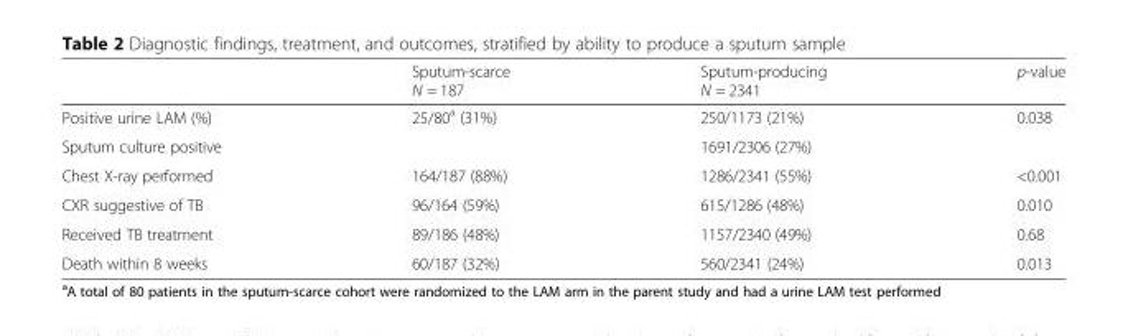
<table><thead><tr><td></td><td>Sputum-scarce N = 187</td><td>Sputum-producing N = 2341</td><td>p-value</td></tr></thead><tbody><tr><td>Positive urine LAM (%)</td><td>25/80<sup>a</sup> (31%)</td><td>250/1173 (21%)</td><td>0.038</td></tr><tr><td>Sputum culture positive</td><td></td><td>1691/2306 (27%)</td><td></td></tr><tr><td>Chest X-ray performed</td><td>164/187 (88%)</td><td>1286/2341 (55%)</td><td>&lt;0.001</td></tr><tr><td>CXR suggestive of TB</td><td>96/164 (59%)</td><td>615/1286 (48%)</td><td>0.010</td></tr><tr><td>Received TB treatment</td><td>89/186 (48%)</td><td>1157/2340 (49%)</td><td>0.68</td></tr><tr><td>Death within 8 weeks</td><td>60/187 (32%)</td><td>560/2341 (24%)</td><td>0.013</td></tr></tbody></table>